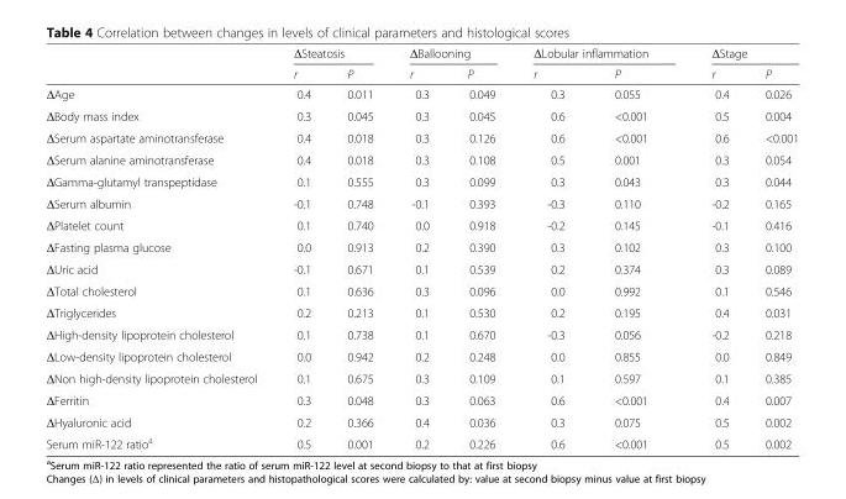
<table><thead><tr><td rowspan="2"></td><td colspan="2">ΔSteatosis</td><td colspan="2">ΔBallooning</td><td colspan="2">ΔLobular inflammation</td><td colspan="2">ΔStage</td></tr><tr><td>r</td><td>P</td><td>r</td><td>P</td><td>r</td><td>P</td><td>r</td><td>P</td></tr></thead><tbody><tr><td>ΔAge</td><td>0.4</td><td>0.011</td><td>0.3</td><td>0.049</td><td>0.3</td><td>0.055</td><td>0.4</td><td>0.026</td></tr><tr><td>ΔBody mass index</td><td>0.3</td><td>0.045</td><td>0.3</td><td>0.045</td><td>0.6</td><td>&lt;0.001</td><td>0.5</td><td>0.004</td></tr><tr><td>ΔSerum aspartate aminotransferase</td><td>0.4</td><td>0.018</td><td>0.3</td><td>0.126</td><td>0.6</td><td>&lt;0.001</td><td>0.6</td><td>&lt;0.001</td></tr><tr><td>ΔSerum alanine aminotransferase</td><td>0.4</td><td>0.018</td><td>0.3</td><td>0.108</td><td>0.5</td><td>0.001</td><td>0.3</td><td>0.054</td></tr><tr><td>ΔGamma-glutamyl transpeptidase</td><td>0.1</td><td>0.555</td><td>0.3</td><td>0.099</td><td>0.3</td><td>0.043</td><td>0.3</td><td>0.044</td></tr><tr><td>ΔSerum albumin</td><td>-0.1</td><td>0.748</td><td>-0.1</td><td>0.393</td><td>-0.3</td><td>0.110</td><td>-0.2</td><td>0.165</td></tr><tr><td>ΔPlatelet count</td><td>0.1</td><td>0.740</td><td>0.0</td><td>0.918</td><td>-0.2</td><td>0.145</td><td>-0.1</td><td>0.416</td></tr><tr><td>ΔFasting plasma glucose</td><td>0.0</td><td>0.913</td><td>0.2</td><td>0.390</td><td>0.3</td><td>0.102</td><td>0.3</td><td>0.100</td></tr><tr><td>ΔUric acid</td><td>-0.1</td><td>0.671</td><td>0.1</td><td>0.539</td><td>0.2</td><td>0.374</td><td>0.3</td><td>0.089</td></tr><tr><td>ΔTotal cholesterol</td><td>0.1</td><td>0.636</td><td>0.3</td><td>0.096</td><td>0.0</td><td>0.992</td><td>0.1</td><td>0.546</td></tr><tr><td>ΔTriglycerides</td><td>0.2</td><td>0.213</td><td>0.1</td><td>0.530</td><td>0.2</td><td>0.195</td><td>0.4</td><td>0.031</td></tr><tr><td>ΔHigh-density lipoprotein cholesterol</td><td>0.1</td><td>0.738</td><td>0.1</td><td>0.670</td><td>-0.3</td><td>0.056</td><td>-0.2</td><td>0.218</td></tr><tr><td>ΔLow-density lipoprotein cholesterol</td><td>0.0</td><td>0.942</td><td>0.2</td><td>0.248</td><td>0.0</td><td>0.855</td><td>0.0</td><td>0.849</td></tr><tr><td>ΔNon high-density lipoprotein cholesterol</td><td>0.1</td><td>0.675</td><td>0.3</td><td>0.109</td><td>0.1</td><td>0.597</td><td>0.1</td><td>0.385</td></tr><tr><td>ΔFerritin</td><td>0.3</td><td>0.048</td><td>0.3</td><td>0.063</td><td>0.6</td><td>&lt;0.001</td><td>0.4</td><td>0.007</td></tr><tr><td>ΔHyaluronic acid</td><td>0.2</td><td>0.366</td><td>0.4</td><td>0.036</td><td>0.3</td><td>0.075</td><td>0.5</td><td>0.002</td></tr><tr><td>Serum miR-122 ratio<sup>a</sup></td><td>0.5</td><td>0.001</td><td>0.2</td><td>0.226</td><td>0.6</td><td>&lt;0.001</td><td>0.5</td><td>0.002</td></tr></tbody></table>